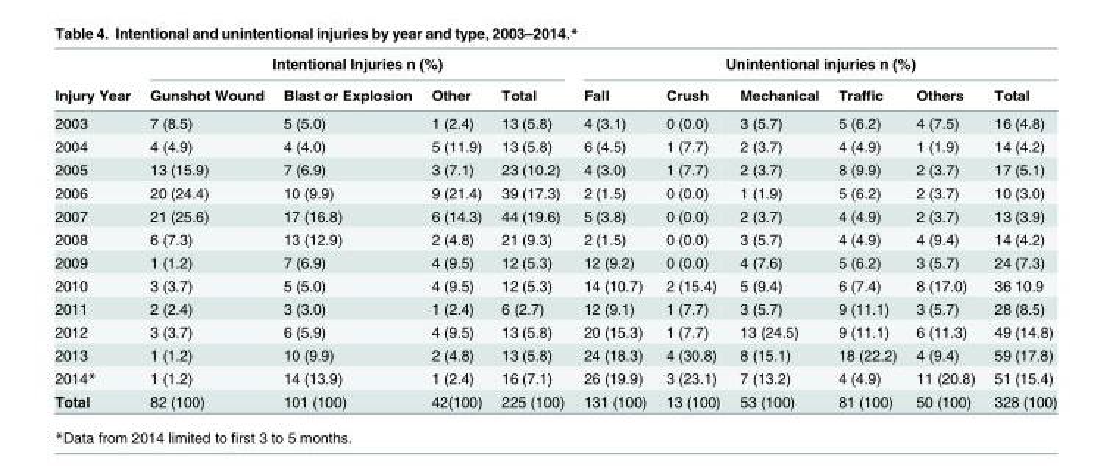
<table><thead><tr><td rowspan="2">Injury Year</td><td colspan="4">Intentional Injuries n (%)</td><td colspan="6">Unintentional injuries n (%)</td></tr><tr><td>Gunshot Wound</td><td>Blast or Explosion</td><td>Other</td><td>Total</td><td>Fall</td><td>Crush</td><td>Mechanical</td><td>Traffic</td><td>Others</td><td>Total</td></tr></thead><tbody><tr><td>2003</td><td>7 (8.5)</td><td>5 (5.0)</td><td>1 (2.4)</td><td>13 (5.8)</td><td>4 (3.1)</td><td>0 (0.0)</td><td>3 (5.7)</td><td>5 (6.2)</td><td>4 (7.5)</td><td>16 (4.8)</td></tr><tr><td>2004</td><td>4 (4.9)</td><td>4 (4.0)</td><td>5 (11.9)</td><td>13 (5.8)</td><td>6 (4.5)</td><td>1 (7.7)</td><td>2 (3.7)</td><td>4 (4.9)</td><td>1 (1.9)</td><td>14 (4.2)</td></tr><tr><td>2005</td><td>13 (15.9)</td><td>7 (6.9)</td><td>3 (7.1)</td><td>23 (10.2)</td><td>4 (3.0)</td><td>1 (7.7)</td><td>2 (3.7)</td><td>8 (9.9)</td><td>2 (3.7)</td><td>17 (5.1)</td></tr><tr><td>2006</td><td>20 (24.4)</td><td>10 (9.9)</td><td>9 (21.4)</td><td>39 (17.3)</td><td>2 (1.5)</td><td>0 (0.0)</td><td>1 (1.9)</td><td>5 (6.2)</td><td>2 (3.7)</td><td>10 (3.0)</td></tr><tr><td>2007</td><td>21 (25.6)</td><td>17 (16.8)</td><td>6 (14.3)</td><td>44 (19.6)</td><td>5 (3.8)</td><td>0 (0.0)</td><td>2 (3.7)</td><td>4 (4.9)</td><td>2 (3.7)</td><td>13 (3.9)</td></tr><tr><td>2008</td><td>6 (7.3)</td><td>13 (12.9)</td><td>2 (4.8)</td><td>21 (9.3)</td><td>2 (1.5)</td><td>0 (0.0)</td><td>3 (5.7)</td><td>4 (4.9)</td><td>4 (9.4)</td><td>14 (4.2)</td></tr><tr><td>2009</td><td>1 (1.2)</td><td>7 (6.9)</td><td>4 (9.5)</td><td>12 (5.3)</td><td>12 (9.2)</td><td>0 (0.0)</td><td>4 (7.6)</td><td>5 (6.2)</td><td>3 (5.7)</td><td>24 (7.3)</td></tr><tr><td>2010</td><td>3 (3.7)</td><td>5 (5.0)</td><td>4 (9.5)</td><td>12 (5.3)</td><td>14 (10.7)</td><td>2 (15.4)</td><td>5 (9.4)</td><td>6 (7.4)</td><td>8 (17.0)</td><td>36 10.9</td></tr><tr><td>2011</td><td>2 (2.4)</td><td>3 (3.0)</td><td>1 (2.4)</td><td>6 (2.7)</td><td>12 (9.1)</td><td>1 (7.7)</td><td>3 (5.7)</td><td>9 (11.1)</td><td>3 (5.7)</td><td>28 (8.5)</td></tr><tr><td>2012</td><td>3 (3.7)</td><td>6 (5.9)</td><td>4 (9.5)</td><td>13 (5.8)</td><td>20 (15.3)</td><td>1 (7.7)</td><td>13 (24.5)</td><td>9 (11.1)</td><td>6 (11.3)</td><td>49 (14.8)</td></tr><tr><td>2013</td><td>1 (1.2)</td><td>10 (9.9)</td><td>2 (4.8)</td><td>13 (5.8)</td><td>24 (18.3)</td><td>4 (30.8)</td><td>8 (15.1)</td><td>18 (22.2)</td><td>4 (9.4)</td><td>59 (17.8)</td></tr><tr><td>2014*</td><td>1 (1.2)</td><td>14 (13.9)</td><td>1 (2.4)</td><td>16 (7.1)</td><td>26 (19.9)</td><td>3 (23.1)</td><td>7 (13.2)</td><td>4 (4.9)</td><td>11 (20.8)</td><td>51 (15.4)</td></tr><tr><td>Total</td><td>82 (100)</td><td>101 (100)</td><td>42(100)</td><td>225 (100)</td><td>131 (100)</td><td>13 (100)</td><td>53 (100)</td><td>81 (100)</td><td>50 (100)</td><td>328 (100)</td></tr></tbody></table>